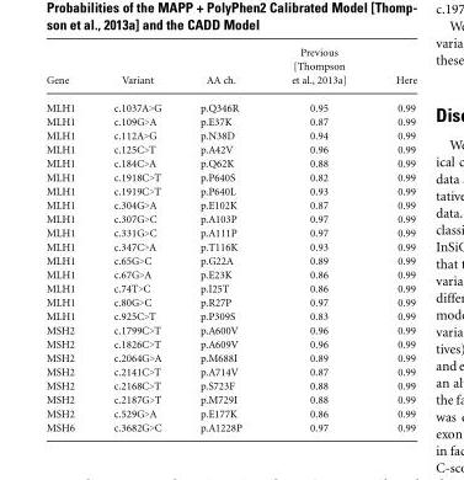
<table><thead><tr><td>Gene</td><td>Variant</td><td>AA ch.</td><td>Previous [Thompson et al., 2013a]</td><td>Here</td></tr></thead><tbody><tr><td>MLH1</td><td>c.1037A&gt;G</td><td>p.Q346R</td><td>0.95</td><td>0.99</td></tr><tr><td>MLH1</td><td>c.109G&gt;A</td><td>p.E37K</td><td>0.87</td><td>0.99</td></tr><tr><td>MLH1</td><td>c.112A&gt;G</td><td>p.N38D</td><td>0.94</td><td>0.99</td></tr><tr><td>MLH1</td><td>c.125C&gt;T</td><td>p.A42V</td><td>0.96</td><td>0.99</td></tr><tr><td>MLH1</td><td>c.184C&gt;A</td><td>p.Q62K</td><td>0.88</td><td>0.99</td></tr><tr><td>MLH1</td><td>c.1918C&gt;T</td><td>p.P640S</td><td>0.82</td><td>0.99</td></tr><tr><td>MLH1</td><td>c.1919C&gt;T</td><td>p.P640L</td><td>0.93</td><td>0.99</td></tr><tr><td>MLH1</td><td>c.304G&gt;A</td><td>p.E102K</td><td>0.87</td><td>0.99</td></tr><tr><td>MLH1</td><td>c.307G&gt;C</td><td>p.A103P</td><td>0.97</td><td>0.99</td></tr><tr><td>MLH1</td><td>c.331G&gt;C</td><td>p.A111P</td><td>0.97</td><td>0.99</td></tr><tr><td>MLH1</td><td>c.347C&gt;A</td><td>p.T116K</td><td>0.93</td><td>0.99</td></tr><tr><td>MLH1</td><td>c.65G&gt;C</td><td>p.G22A</td><td>0.89</td><td>0.99</td></tr><tr><td>MLH1</td><td>c.67G&gt;A</td><td>p.E23K</td><td>0.86</td><td>0.99</td></tr><tr><td>MLH1</td><td>c.74T&gt;C</td><td>p.I25T</td><td>0.86</td><td>0.99</td></tr><tr><td>MLH1</td><td>c.80G&gt;C</td><td>p.R27P</td><td>0.97</td><td>0.99</td></tr><tr><td>MLH1</td><td>c.925C&gt;T</td><td>p.P309S</td><td>0.83</td><td>0.99</td></tr><tr><td>MSH2</td><td>c.1799C&gt;T</td><td>p.A600V</td><td>0.96</td><td>0.99</td></tr><tr><td>MSH2</td><td>c.1826C&gt;T</td><td>p.A609V</td><td>0.96</td><td>0.99</td></tr><tr><td>MSH2</td><td>c.2064G&gt;A</td><td>p.M688I</td><td>0.89</td><td>0.99</td></tr><tr><td>MSH2</td><td>c.2141C&gt;T</td><td>p.A714V</td><td>0.87</td><td>0.99</td></tr><tr><td>MSH2</td><td>c.2168C&gt;T</td><td>p.S723F</td><td>0.88</td><td>0.99</td></tr><tr><td>MSH2</td><td>c.2187G&gt;T</td><td>p.M729I</td><td>0.88</td><td>0.99</td></tr><tr><td>MSH2</td><td>c.529G&gt;A</td><td>p.E177K</td><td>0.86</td><td>0.99</td></tr><tr><td>MSH6</td><td>c.3682G&gt;C</td><td>p.A1228P</td><td>0.97</td><td>0.99</td></tr></tbody></table>